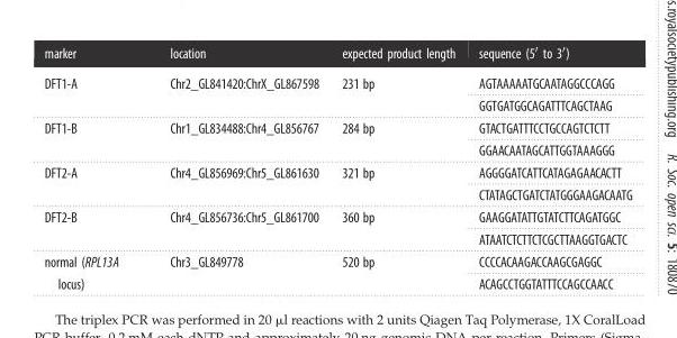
<table><thead><tr><td>marker</td><td>location</td><td>expected product length</td><td>sequence (5′ to 3′)</td></tr></thead><tbody><tr><td rowspan="2">DFT1-A</td><td rowspan="2">Chr2_GL841420:ChrX_GL867598</td><td rowspan="2">231 bp</td><td>AGTAAAAATGCAATAGGCCCAGG</td></tr><tr><td>GGTGATGGCAGATTTCAGCTAAG</td></tr><tr><td rowspan="2">DFT1-B</td><td rowspan="2">Chr1_GL834488:Chr4_GL856767</td><td rowspan="2">284 bp</td><td>GTACTGATTTCCTGCCAGTCTCTT</td></tr><tr><td>GGAACAATAGCATTGGTAAAGGG</td></tr><tr><td rowspan="2">DFT2-A</td><td rowspan="2">Chr4_GL856969:Chr5_GL861630</td><td rowspan="2">321 bp</td><td>AGGGGATCATTCATAGAGAACACTT</td></tr><tr><td>CTATAGCTGATCTATGGGAAGACAATG</td></tr><tr><td rowspan="2">DFT2-B</td><td rowspan="2">Chr4_GL856736:Chr5_GL861700</td><td rowspan="2">360 bp</td><td>GAAGGATATTGTATCTTCAGATGGC</td></tr><tr><td>ATAATCTCTTCTCGCTTAAGGTGACTC</td></tr><tr><td rowspan="2">normal (RPL13A locus)</td><td rowspan="2">Chr3_GL849778</td><td rowspan="2">520 bp</td><td>CCCCACAAGACCAAGCGAGGC</td></tr><tr><td>ACAGCCTGGTATTTCCAGCCAACC</td></tr></tbody></table>